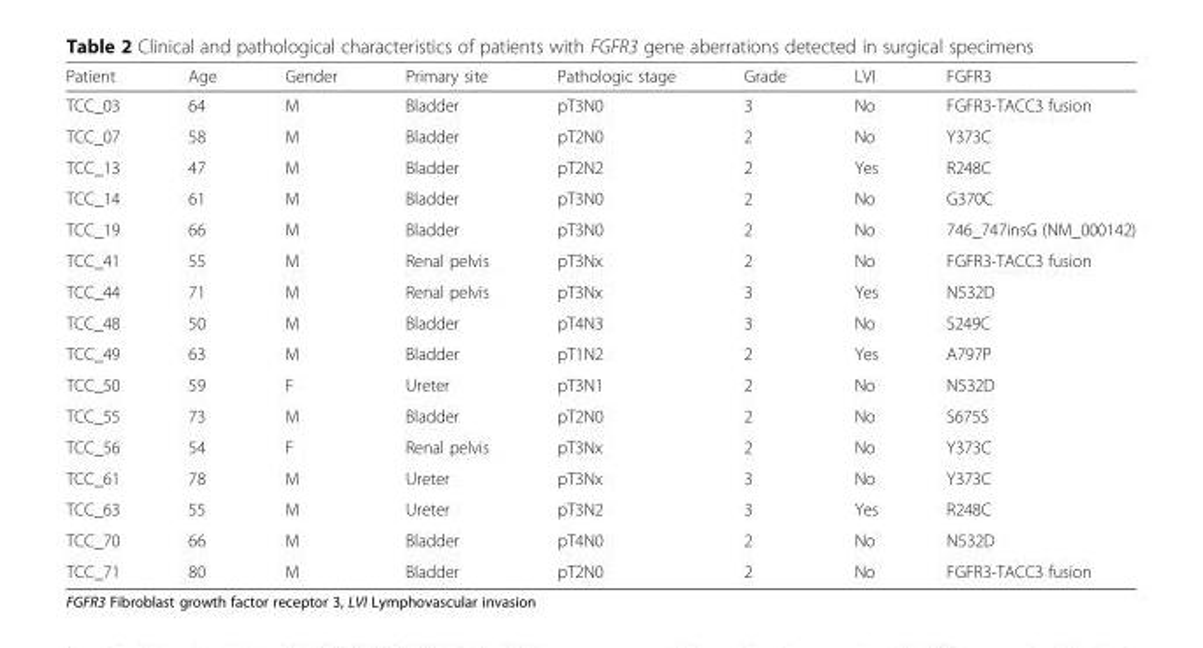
<table><thead><tr><td>Patient</td><td>Age</td><td>Gender</td><td>Primary site</td><td>Pathologic stage</td><td>Grade</td><td>LVI</td><td>FGFR3</td></tr></thead><tbody><tr><td>TCC_03</td><td>64</td><td>M</td><td>Bladder</td><td>pT3N0</td><td>3</td><td>No</td><td>FGFR3-TACC3 fusion</td></tr><tr><td>TCC_07</td><td>58</td><td>M</td><td>Bladder</td><td>pT2N0</td><td>2</td><td>No</td><td>Y373C</td></tr><tr><td>TCC_13</td><td>47</td><td>M</td><td>Bladder</td><td>pT2N2</td><td>2</td><td>Yes</td><td>R248C</td></tr><tr><td>TCC_14</td><td>61</td><td>M</td><td>Bladder</td><td>pT3N0</td><td>2</td><td>No</td><td>G370C</td></tr><tr><td>TCC_19</td><td>66</td><td>M</td><td>Bladder</td><td>pT3N0</td><td>2</td><td>No</td><td>746_747insG (NM_000142)</td></tr><tr><td>TCC_41</td><td>55</td><td>M</td><td>Renal pelvis</td><td>pT3Nx</td><td>2</td><td>No</td><td>FGFR3-TACC3 fusion</td></tr><tr><td>TCC_44</td><td>71</td><td>M</td><td>Renal pelvis</td><td>pT3Nx</td><td>3</td><td>Yes</td><td>N532D</td></tr><tr><td>TCC_48</td><td>50</td><td>M</td><td>Bladder</td><td>pT4N3</td><td>3</td><td>No</td><td>S249C</td></tr><tr><td>TCC_49</td><td>63</td><td>M</td><td>Bladder</td><td>pT1N2</td><td>2</td><td>Yes</td><td>A797P</td></tr><tr><td>TCC_50</td><td>59</td><td>F</td><td>Ureter</td><td>pT3N1</td><td>2</td><td>No</td><td>N532D</td></tr><tr><td>TCC_55</td><td>73</td><td>M</td><td>Bladder</td><td>pT2N0</td><td>2</td><td>No</td><td>S675S</td></tr><tr><td>TCC_56</td><td>54</td><td>F</td><td>Renal pelvis</td><td>pT3Nx</td><td>2</td><td>No</td><td>Y373C</td></tr><tr><td>TCC_61</td><td>78</td><td>M</td><td>Ureter</td><td>pT3Nx</td><td>3</td><td>No</td><td>Y373C</td></tr><tr><td>TCC_63</td><td>55</td><td>M</td><td>Ureter</td><td>pT3N2</td><td>3</td><td>Yes</td><td>R248C</td></tr><tr><td>TCC_70</td><td>66</td><td>M</td><td>Bladder</td><td>pT4N0</td><td>2</td><td>No</td><td>N532D</td></tr><tr><td>TCC_71</td><td>80</td><td>M</td><td>Bladder</td><td>pT2N0</td><td>2</td><td>No</td><td>FGFR3-TACC3 fusion</td></tr></tbody></table>